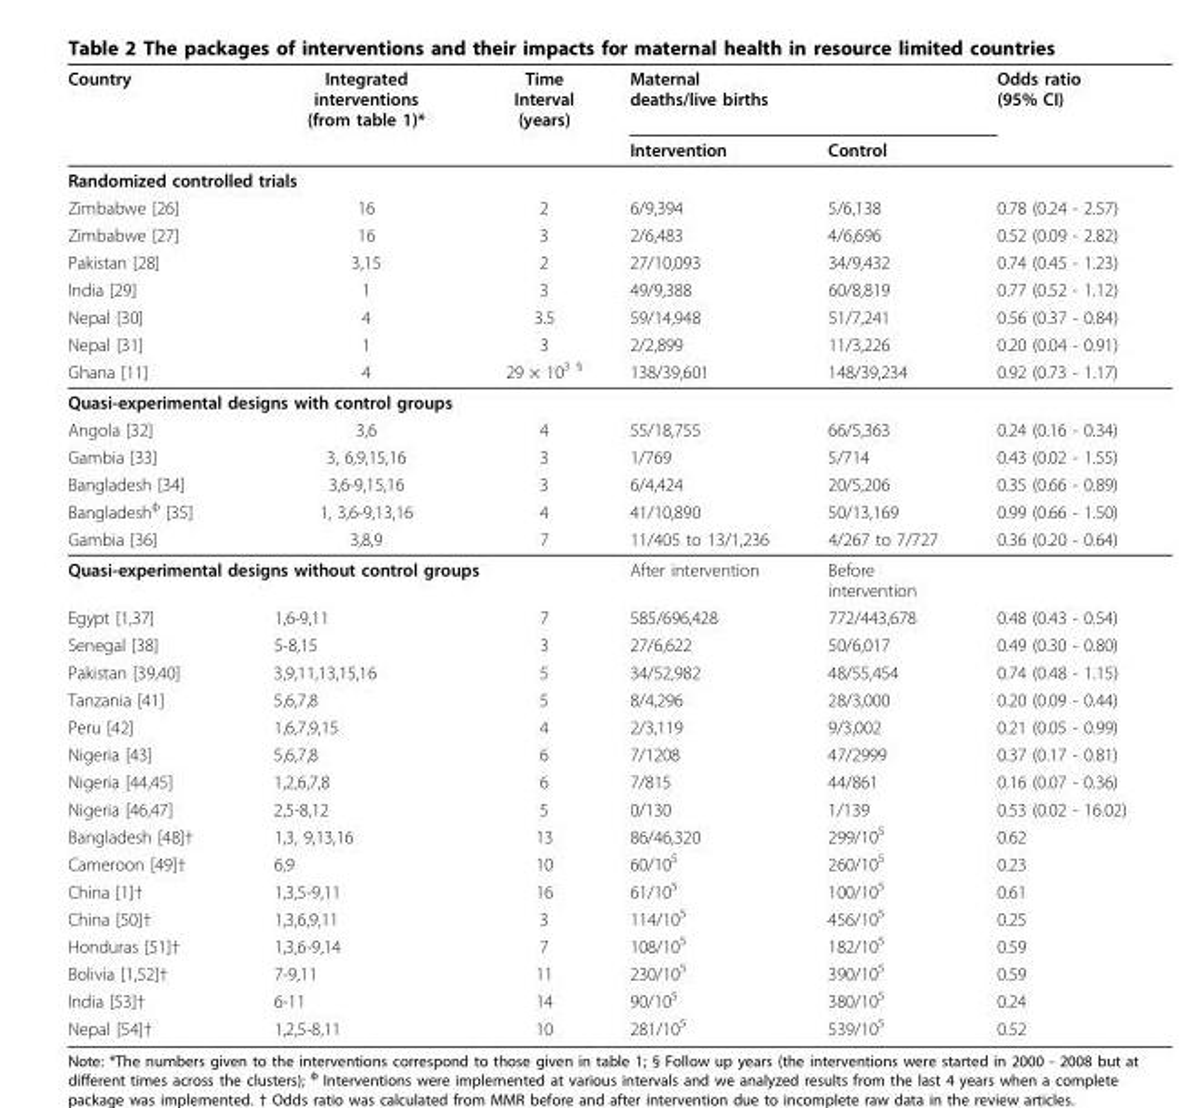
<table><thead><tr><td rowspan="2">Country</td><td rowspan="2">Integrated interventions (from table 1)*</td><td rowspan="2">Time Interval (years)</td><td colspan="2">Maternal deaths/live births</td><td rowspan="2">Odds ratio (95% CI)</td></tr><tr><td>Intervention</td><td>Control</td></tr></thead><tbody><tr><td colspan="6">Randomized controlled trials</td></tr><tr><td>Zimbabwe [26]</td><td>16</td><td>2</td><td>6/9,394</td><td>5/6,138</td><td>0.78 (0.24 - 2.57)</td></tr><tr><td>Zimbabwe [27]</td><td>16</td><td>3</td><td>2/6,483</td><td>4/6,696</td><td>0.52 (0.09 - 2.82)</td></tr><tr><td>Pakistan [28]</td><td>3,15</td><td>2</td><td>27/10,093</td><td>34/9,432</td><td>0.74 (0.45 - 1.23)</td></tr><tr><td>India [29]</td><td>1</td><td>3</td><td>49/9,388</td><td>60/8,819</td><td>0.77 (0.52 - 1.12)</td></tr><tr><td>Nepal [30]</td><td>4</td><td>3.5</td><td>59/14,948</td><td>51/7,241</td><td>0.56 (0.37 - 0.84)</td></tr><tr><td>Nepal [31]</td><td>1</td><td>3</td><td>2/2,899</td><td>11/3,226</td><td>0.20 (0.04 - 0.91)</td></tr><tr><td>Ghana [11]</td><td>4</td><td>29 × 10<sup>3 §</sup></td><td>138/39,601</td><td>148/39,234</td><td>0.92 (0.73 - 1.17)</td></tr><tr><td colspan="6">Quasi-experimental designs with control groups</td></tr><tr><td>Angola [32]</td><td>3,6</td><td>4</td><td>55/18,755</td><td>66/5,363</td><td>0.24 (0.16 - 0.34)</td></tr><tr><td>Gambia [33]</td><td>3, 6,9,15,16</td><td>3</td><td>1/769</td><td>5/714</td><td>0.43 (0.02 - 1.55)</td></tr><tr><td>Bangladesh [34]</td><td>3,6-9,15,16</td><td>3</td><td>6/4,424</td><td>20/5,206</td><td>0.35 (0.66 - 0.89)</td></tr><tr><td>Bangladesh<sup>ф</sup> [35]</td><td>1, 3,6-9,13,16</td><td>4</td><td>41/10,890</td><td>50/13,169</td><td>0.99 (0.66 - 1.50)</td></tr><tr><td>Gambia [36]</td><td>3,8,9</td><td>7</td><td>11/405 to 13/1,236</td><td>4/267 to 7/727</td><td>0.36 (0.20 - 0.64)</td></tr><tr><td colspan="3">Quasi-experimental designs without control groups</td><td>After intervention</td><td>Before intervention</td><td></td></tr><tr><td>Egypt [1,37]</td><td>1,6-9,11</td><td>7</td><td>585/696,428</td><td>772/443,678</td><td>0.48 (0.43 - 0.54)</td></tr><tr><td>Senegal [38]</td><td>5-8,15</td><td>3</td><td>27/6,622</td><td>50/6,017</td><td>0.49 (0.30 - 0.80)</td></tr><tr><td>Pakistan [39,40]</td><td>3,9,11,13,15,16</td><td>5</td><td>34/52,982</td><td>48/55,454</td><td>0.74 (0.48 - 1.15)</td></tr><tr><td>Tanzania [41]</td><td>5,6,7,8</td><td>5</td><td>8/4,296</td><td>28/3,000</td><td>0.20 (0.09 - 0.44)</td></tr><tr><td>Peru [42]</td><td>1,6,7,9,15</td><td>4</td><td>2/3,119</td><td>9/3,002</td><td>0.21 (0.05 - 0.99)</td></tr><tr><td>Nigeria [43]</td><td>5,6,7,8</td><td>6</td><td>7/1208</td><td>47/2999</td><td>0.37 (0.17 - 0.81)</td></tr><tr><td>Nigeria [44,45]</td><td>1,2,6,7,8</td><td>6</td><td>7/815</td><td>44/861</td><td>0.16 (0.07 - 0.36)</td></tr><tr><td>Nigeria [46,47]</td><td>2,5-8,12</td><td>5</td><td>0/130</td><td>1/139</td><td>0.53 (0.02 - 16.02)</td></tr><tr><td>Bangladesh [48]†</td><td>1,3, 9,13,16</td><td>13</td><td>86/46,320</td><td>299/10<sup>5</sup></td><td>0.62</td></tr><tr><td>Cameroon [49]†</td><td>6,9</td><td>10</td><td>60/10<sup>5</sup></td><td>260/10<sup>5</sup></td><td>0.23</td></tr><tr><td>China [1]†</td><td>1,3,5-9,11</td><td>16</td><td>61/10<sup>5</sup></td><td>100/10<sup>5</sup></td><td>0.61</td></tr><tr><td>China [50]†</td><td>1,3,6,9,11</td><td>3</td><td>114/10<sup>5</sup></td><td>456/10<sup>5</sup></td><td>0.25</td></tr><tr><td>Honduras [51]†</td><td>1,3,6-9,14</td><td>7</td><td>108/10<sup>5</sup></td><td>182/10<sup>5</sup></td><td>0.59</td></tr><tr><td>Bolivia [1,52]†</td><td>7-9,11</td><td>11</td><td>230/10<sup>5</sup></td><td>390/10<sup>5</sup></td><td>0.59</td></tr><tr><td>India [53]†</td><td>6-11</td><td>14</td><td>90/10<sup>5</sup></td><td>380/10<sup>5</sup></td><td>0.24</td></tr><tr><td>Nepal [54]†</td><td>1,2,5-8,11</td><td>10</td><td>281/10<sup>5</sup></td><td>539/10<sup>5</sup></td><td>0.52</td></tr></tbody></table>